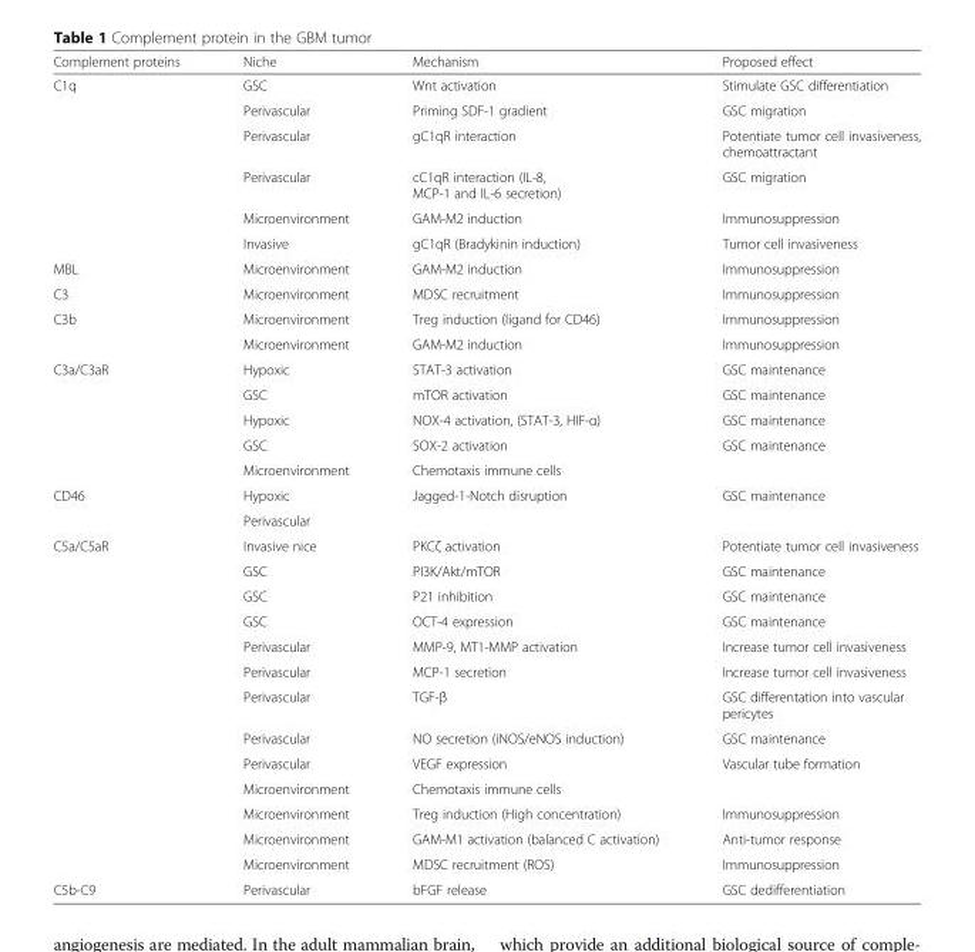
<table><thead><tr><td>Complement proteins</td><td>Niche</td><td>Mechanism</td><td>Proposed effect</td></tr></thead><tbody><tr><td rowspan="6">C1q</td><td>GSC</td><td>Wnt activation</td><td>Stimulate GSC differentiation</td></tr><tr><td>Perivascular</td><td>Priming SDF-1 gradient</td><td>GSC migration</td></tr><tr><td>Perivascular</td><td>gC1qR interaction</td><td>Potentiate tumor cell invasiveness, chemoattractant</td></tr><tr><td>Perivascular</td><td>cC1qR interaction (IL-8, MCP-1 and IL-6 secretion)</td><td>GSC migration</td></tr><tr><td>Microenvironment</td><td>GAM-M2 induction</td><td>Immunosuppression</td></tr><tr><td>Invasive</td><td>gC1qR (Bradykinin induction)</td><td>Tumor cell invasiveness</td></tr><tr><td>MBL</td><td>Microenvironment</td><td>GAM-M2 induction</td><td>Immunosuppression</td></tr><tr><td>C3</td><td>Microenvironment</td><td>MDSC recruitment</td><td>Immunosuppression</td></tr><tr><td rowspan="2">C3b</td><td>Microenvironment</td><td>Treg induction (ligand for CD46)</td><td>Immunosuppression</td></tr><tr><td>Microenvironment</td><td>GAM-M2 induction</td><td>Immunosuppression</td></tr><tr><td rowspan="5">C3a/C3aR</td><td>Hypoxic</td><td>STAT-3 activation</td><td>GSC maintenance</td></tr><tr><td>GSC</td><td>mTOR activation</td><td>GSC maintenance</td></tr><tr><td>Hypoxic</td><td>NOX-4 activation, (STAT-3, HIF-α)</td><td>GSC maintenance</td></tr><tr><td>GSC</td><td>SOX-2 activation</td><td>GSC maintenance</td></tr><tr><td>Microenvironment</td><td>Chemotaxis immune cells</td><td></td></tr><tr><td rowspan="2">CD46</td><td>Hypoxic</td><td>Jagged-1-Notch disruption</td><td>GSC maintenance</td></tr><tr><td>Perivascular</td><td></td><td></td></tr><tr><td rowspan="13">C5a/C5aR</td><td>Invasive nice</td><td>PKCζ activation</td><td>Potentiate tumor cell invasiveness</td></tr><tr><td>GSC</td><td>PI3K/Akt/mTOR</td><td>GSC maintenance</td></tr><tr><td>GSC</td><td>P21 inhibition</td><td>GSC maintenance</td></tr><tr><td>GSC</td><td>OCT-4 expression</td><td>GSC maintenance</td></tr><tr><td>Perivascular</td><td>MMP-9, MT1-MMP activation</td><td>Increase tumor cell invasiveness</td></tr><tr><td>Perivascular</td><td>MCP-1 secretion</td><td>Increase tumor cell invasiveness</td></tr><tr><td>Perivascular</td><td>TGF-β</td><td>GSC differentation into vascular pericytes</td></tr><tr><td>Perivascular</td><td>NO secretion (iNOS/eNOS induction)</td><td>GSC maintenance</td></tr><tr><td>Perivascular</td><td>VEGF expression</td><td>Vascular tube formation</td></tr><tr><td>Microenvironment</td><td>Chemotaxis immune cells</td><td></td></tr><tr><td>Microenvironment</td><td>Treg induction (High concentration)</td><td>Immunosuppression</td></tr><tr><td>Microenvironment</td><td>GAM-M1 activation (balanced C activation)</td><td>Anti-tumor response</td></tr><tr><td>Microenvironment</td><td>MDSC recruitment (ROS)</td><td>Immunosuppression</td></tr><tr><td>C5b-C9</td><td>Perivascular</td><td>bFGF release</td><td>GSC dedifferentiation</td></tr></tbody></table>